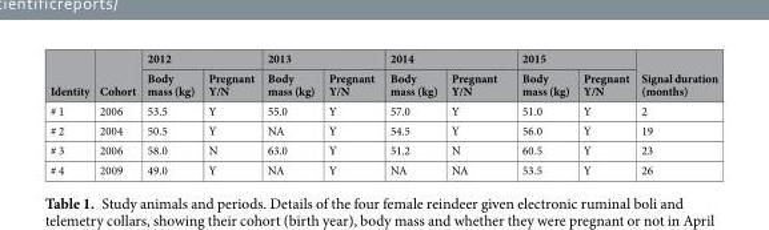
<table><thead><tr><td rowspan="2">Identity</td><td rowspan="2">Cohort</td><td colspan="2">2012</td><td colspan="2">2013</td><td colspan="2">2014</td><td colspan="2">2015</td><td rowspan="2">Signal duration (months)</td></tr><tr><td>Body mass (kg)</td><td>Pregnant Y/N</td><td>Body mass (kg)</td><td>Pregnant Y/N</td><td>Body mass (kg)</td><td>Pregnant Y/N</td><td>Body mass (kg)</td><td>Pregnant Y/N</td></tr></thead><tbody><tr><td># 1</td><td>2006</td><td>53.5</td><td>Y</td><td>55.0</td><td>Y</td><td>57.0</td><td>Y</td><td>51.0</td><td>Y</td><td>2</td></tr><tr><td># 2</td><td>2004</td><td>50.5</td><td>Y</td><td>NA</td><td>Y</td><td>54.5</td><td>Y</td><td>56.0</td><td>Y</td><td>19</td></tr><tr><td># 3</td><td>2006</td><td>58.0</td><td>N</td><td>63.0</td><td>Y</td><td>51.2</td><td>N</td><td>60.5</td><td>Y</td><td>23</td></tr><tr><td># 4</td><td>2009</td><td>49.0</td><td>Y</td><td>NA</td><td>Y</td><td>NA</td><td>NA</td><td>53.5</td><td>Y</td><td>26</td></tr></tbody></table>